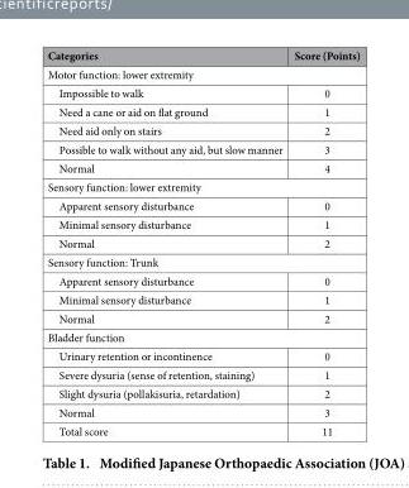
<table><thead><tr><td>Categories</td><td>Score (Points)</td></tr></thead><tbody><tr><td colspan="2">Motor function: lower extremity</td></tr><tr><td>Impossible to walk</td><td>0</td></tr><tr><td>Need a cane or aid on flat ground</td><td>1</td></tr><tr><td>Need aid only on stairs</td><td>2</td></tr><tr><td>Possible to walk without any aid, but slow manner</td><td>3</td></tr><tr><td>Normal</td><td>4</td></tr><tr><td colspan="2">Sensory function: lower extremity</td></tr><tr><td>Apparent sensory disturbance</td><td>0</td></tr><tr><td>Minimal sensory disturbance</td><td>1</td></tr><tr><td>Normal</td><td>2</td></tr><tr><td colspan="2">Sensory function: Trunk</td></tr><tr><td>Apparent sensory disturbance</td><td>0</td></tr><tr><td>Minimal sensory disturbance</td><td>1</td></tr><tr><td>Normal</td><td>2</td></tr><tr><td colspan="2">Bladder function</td></tr><tr><td>Urinary retention or incontinence</td><td>0</td></tr><tr><td>Severe dysuria (sense of retention, staining)</td><td>1</td></tr><tr><td>Slight dysuria (pollakisuria, retardation)</td><td>2</td></tr><tr><td>Normal</td><td>3</td></tr><tr><td>Total score</td><td>11</td></tr></tbody></table>